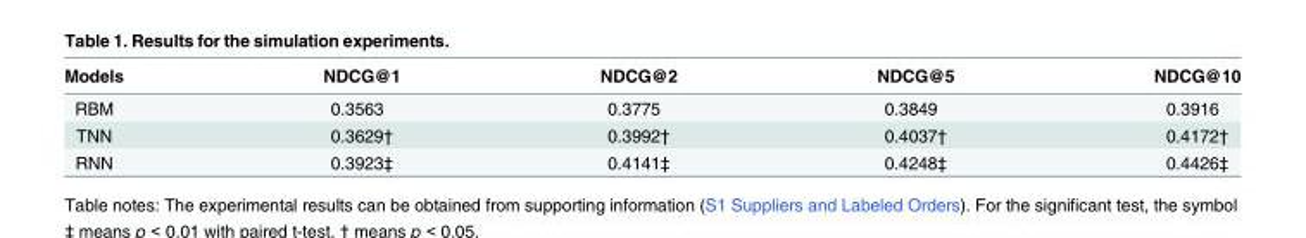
<table><thead><tr><td>Models</td><td>NDCG@1</td><td>NDCG@2</td><td>NDCG@5</td><td>NDCG@10</td></tr></thead><tbody><tr><td>RBM</td><td>0.3563</td><td>0.3775</td><td>0.3849</td><td>0.3916</td></tr><tr><td>TNN</td><td>0.3629†</td><td>0.3992†</td><td>0.4037†</td><td>0.4172†</td></tr><tr><td>RNN</td><td>0.3923‡</td><td>0.4141‡</td><td>0.4248‡</td><td>0.4426‡</td></tr></tbody></table>